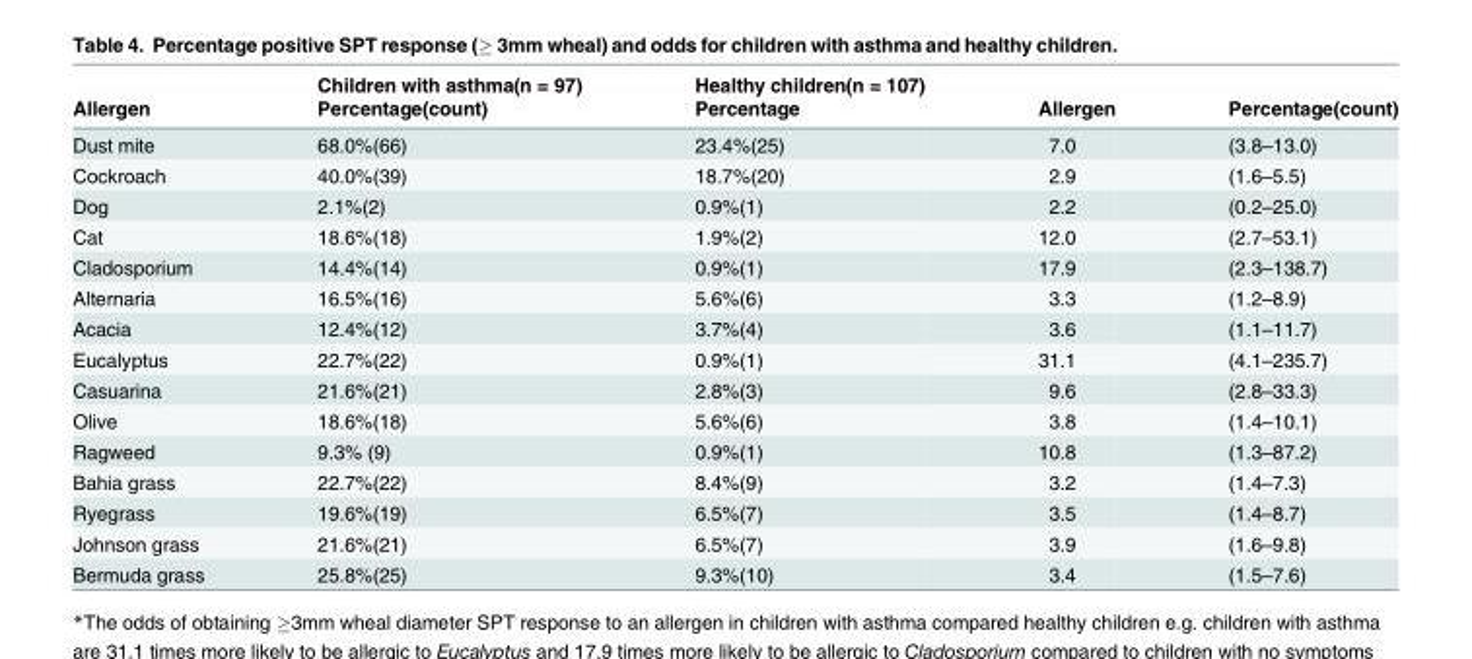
<table><thead><tr><td rowspan="2">Allergen</td><td rowspan="2">Children with asthma(n = 97) Percentage(count)</td><td rowspan="2">Healthy children(n = 107) Percentage</td><td rowspan="2">Allergen</td><td rowspan="2">Percentage(count)</td></tr><tr></tr></thead><tbody><tr><td>Dust mite</td><td>68.0%(66)</td><td>23.4%(25)</td><td>7.0</td><td>(3.8–13.0)</td></tr><tr><td>Cockroach</td><td>40.0%(39)</td><td>18.7%(20)</td><td>2.9</td><td>(1.6–5.5)</td></tr><tr><td>Dog</td><td>2.1%(2)</td><td>0.9%(1)</td><td>2.2</td><td>(0.2–25.0)</td></tr><tr><td>Cat</td><td>18.6%(18)</td><td>1.9%(2)</td><td>12.0</td><td>(2.7–53.1)</td></tr><tr><td>Cladosporium</td><td>14.4%(14)</td><td>0.9%(1)</td><td>17.9</td><td>(2.3–138.7)</td></tr><tr><td>Alternaria</td><td>16.5%(16)</td><td>5.6%(6)</td><td>3.3</td><td>(1.2–8.9)</td></tr><tr><td>Acacia</td><td>12.4%(12)</td><td>3.7%(4)</td><td>3.6</td><td>(1.1–11.7)</td></tr><tr><td>Eucalyptus</td><td>22.7%(22)</td><td>0.9%(1)</td><td>31.1</td><td>(4.1–235.7)</td></tr><tr><td>Casuarina</td><td>21.6%(21)</td><td>2.8%(3)</td><td>9.6</td><td>(2.8–33.3)</td></tr><tr><td>Olive</td><td>18.6%(18)</td><td>5.6%(6)</td><td>3.8</td><td>(1.4–10.1)</td></tr><tr><td>Ragweed</td><td>9.3% (9)</td><td>0.9%(1)</td><td>10.8</td><td>(1.3–87.2)</td></tr><tr><td>Bahia grass</td><td>22.7%(22)</td><td>8.4%(9)</td><td>3.2</td><td>(1.4–7.3)</td></tr><tr><td>Ryegrass</td><td>19.6%(19)</td><td>6.5%(7)</td><td>3.5</td><td>(1.4–8.7)</td></tr><tr><td>Johnson grass</td><td>21.6%(21)</td><td>6.5%(7)</td><td>3.9</td><td>(1.6–9.8)</td></tr><tr><td>Bermuda grass</td><td>25.8%(25)</td><td>9.3%(10)</td><td>3.4</td><td>(1.5–7.6)</td></tr></tbody></table>